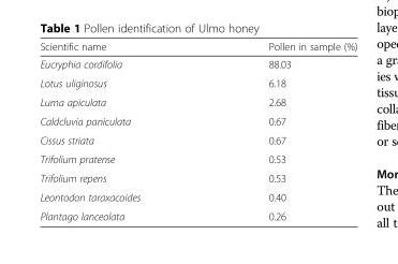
<table><thead><tr><td>Scientific name</td><td>Pollen in sample (%)</td></tr></thead><tbody><tr><td>Eucryphia cordifolia</td><td>88.03</td></tr><tr><td>Lotus uliginosus</td><td>6.18</td></tr><tr><td>Luma apiculata</td><td>2.68</td></tr><tr><td>Caldcluvia paniculata</td><td>0.67</td></tr><tr><td>Cissus striata</td><td>0.67</td></tr><tr><td>Trifolium pratense</td><td>0.53</td></tr><tr><td>Trifolium repens</td><td>0.53</td></tr><tr><td>Leontodon taraxacoides</td><td>0.40</td></tr><tr><td>Plantago lanceolata</td><td>0.26</td></tr></tbody></table>